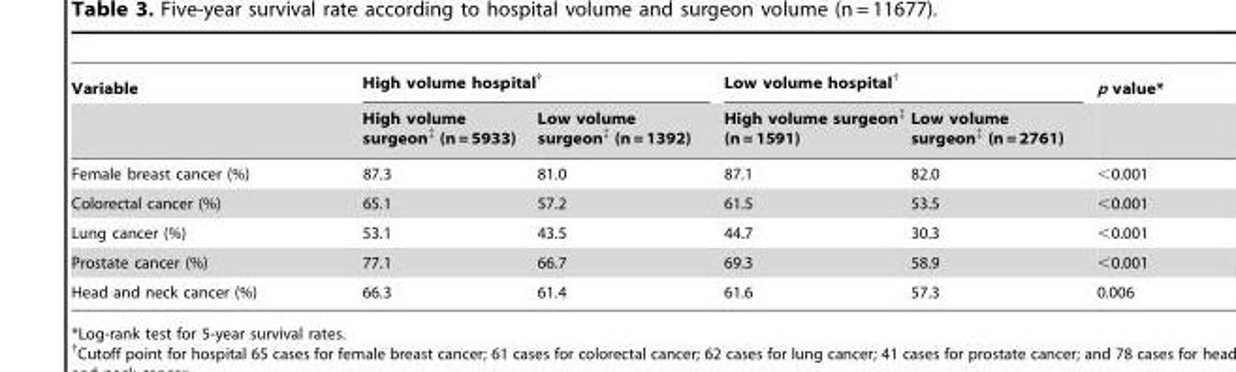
<table><thead><tr><td rowspan="2">Variable</td><td colspan="2">High volume hospital†</td><td colspan="2">Low volume hospital†</td><td rowspan="2">p value*</td></tr><tr><td>High volume surgeon‡ (n = 5933)</td><td>Low volume surgeon‡ (n = 1392)</td><td>High volume surgeon‡ (n = 1591)</td><td>Low volume surgeon‡ (n = 2761)</td></tr></thead><tbody><tr><td>Female breast cancer (%)</td><td>87.3</td><td>81.0</td><td>87.1</td><td>82.0</td><td>&lt;0.001</td></tr><tr><td>Colorectal cancer (%)</td><td>65.1</td><td>57.2</td><td>61.5</td><td>53.5</td><td>&lt;0.001</td></tr><tr><td>Lung cancer (%)</td><td>53.1</td><td>43.5</td><td>44.7</td><td>30.3</td><td>&lt;0.001</td></tr><tr><td>Prostate cancer (%)</td><td>77.1</td><td>66.7</td><td>69.3</td><td>58.9</td><td>&lt;0.001</td></tr><tr><td>Head and neck cancer (%)</td><td>66.3</td><td>61.4</td><td>61.6</td><td>57.3</td><td>0.006</td></tr></tbody></table>